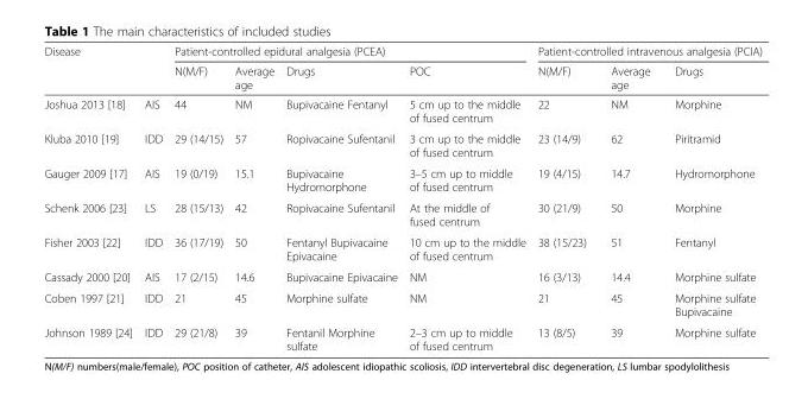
<table><thead><tr><td rowspan="2" colspan="2">Disease</td><td colspan="4">Patient-controlled epidural analgesia (PCEA)</td><td colspan="3">Patient-controlled intravenous analgesia (PCIA)</td></tr><tr><td rowspan="2">N(M/F) 44</td><td rowspan="2">Average age NM</td><td rowspan="2">Drugs Bupivacaine Fentanyl</td><td rowspan="2">POC 5 cm up to the middle of fused centrum</td><td rowspan="2">N(M/F) 22</td><td rowspan="2">Average age NM</td><td rowspan="2">Drugs Morphine</td></tr><tr><td>Joshua 2013 [18]</td><td>AIS</td></tr></thead><tbody><tr><td>Kluba 2010 [19]</td><td>IDD</td><td>29 (14/15)</td><td>57</td><td>Ropivacaine Sufentanil</td><td>3 cm up to the middle of fused centrum</td><td>23 (14/9)</td><td>62</td><td>Piritramid</td></tr><tr><td>Gauger 2009 [17]</td><td>AIS</td><td>19 (0/19)</td><td>15.1</td><td>Bupivacaine Hydromorphone</td><td>3–5 cm up to middle of fused centrum</td><td>19 (4/15)</td><td>14.7</td><td>Hydromorphone</td></tr><tr><td>Schenk 2006 [23]</td><td>LS</td><td>28 (15/13)</td><td>42</td><td>Ropivacaine Sufentanil</td><td>At the middle of fused centrum</td><td>30 (21/9)</td><td>50</td><td>Morphine</td></tr><tr><td>Fisher 2003 [22]</td><td>IDD</td><td>36 (17/19)</td><td>50</td><td>Fentanyl Bupivacaine Epivacaine</td><td>10 cm up to the middle of fused centrum</td><td>38 (15/23)</td><td>51</td><td>Fentanyl</td></tr><tr><td>Cassady 2000 [20]</td><td>AIS</td><td>17 (2/15)</td><td>14.6</td><td>Bupivacaine Epivacaine</td><td>NM</td><td>16 (3/13)</td><td>14.4</td><td>Morphine sulfate</td></tr><tr><td>Coben 1997 [21]</td><td>IDD</td><td>21</td><td>45</td><td>Morphine sulfate</td><td>NM</td><td>21</td><td>45</td><td>Morphine sulfate Bupivacaine</td></tr><tr><td>Johnson 1989 [24]</td><td>IDD</td><td>29 (21/8)</td><td>39</td><td>Fentanil Morphine sulfate</td><td>2–3 cm up to middle of fused centrum</td><td>13 (8/5)</td><td>39</td><td>Morphine sulfate</td></tr></tbody></table>